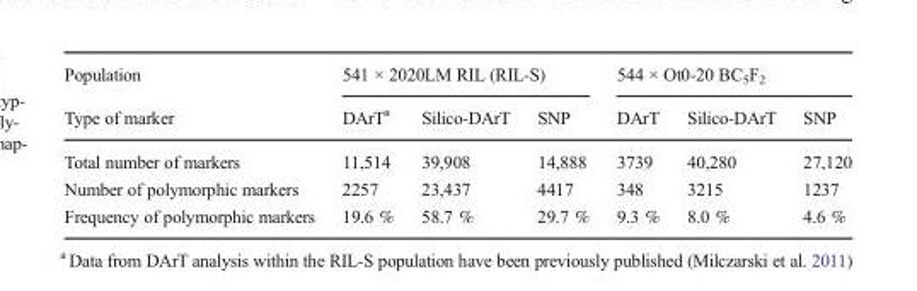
<table><thead><tr><td rowspan="2">Population Type of marker</td><td colspan="3">541 × 2020LM RIL (RIL-S)</td><td colspan="3">544 × Ot0-20 BC<sub>5</sub>F<sub>2</sub></td></tr><tr><td>DArT<sup>a</sup></td><td>Silico-DArT</td><td>SNP</td><td>DArT</td><td>Silico-DArT</td><td>SNP</td></tr></thead><tbody><tr><td>Total number of markers</td><td>11,514</td><td>39,908</td><td>14,888</td><td>3739</td><td>40,280</td><td>27,120</td></tr><tr><td>Number of polymorphic markers</td><td>2257</td><td>23,437</td><td>4417</td><td>348</td><td>3215</td><td>1237</td></tr><tr><td>Frequency of polymorphic markers</td><td>19.6 %</td><td>58.7 %</td><td>29.7 %</td><td>9.3 %</td><td>8.0 %</td><td>4.6 %</td></tr></tbody></table>